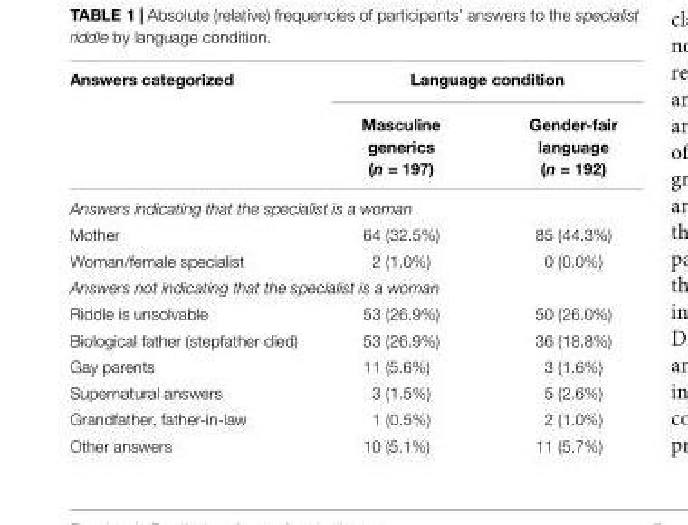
<table><thead><tr><td rowspan="2">Answers categorized</td><td colspan="2">Language condition</td></tr><tr><td>Masculine generics (n = 197)</td><td>Gender-fair language (n = 192)</td></tr></thead><tbody><tr><td colspan="3">Answers indicating that the specialist is a woman</td></tr><tr><td>Mother</td><td>64 (32.5%)</td><td>85 (44.3%)</td></tr><tr><td>Woman/female specialist</td><td>2 (1.0%)</td><td>0 (0.0%)</td></tr><tr><td colspan="3">Answers not indicating that the specialist is a woman</td></tr><tr><td>Riddle is unsolvable</td><td>53 (26.9%)</td><td>50 (26.0%)</td></tr><tr><td>Biological father (stepfather died)</td><td>53 (26.9%)</td><td>36 (18.8%)</td></tr><tr><td>Gay parents</td><td>11 (5.6%)</td><td>3 (1.6%)</td></tr><tr><td>Supernatural answers</td><td>3 (1.5%)</td><td>5 (2.6%)</td></tr><tr><td>Grandfather, father-in-law</td><td>1 (0.5%)</td><td>2 (1.0%)</td></tr><tr><td>Other answers</td><td>10 (5.1%)</td><td>11 (5.7%)</td></tr></tbody></table>